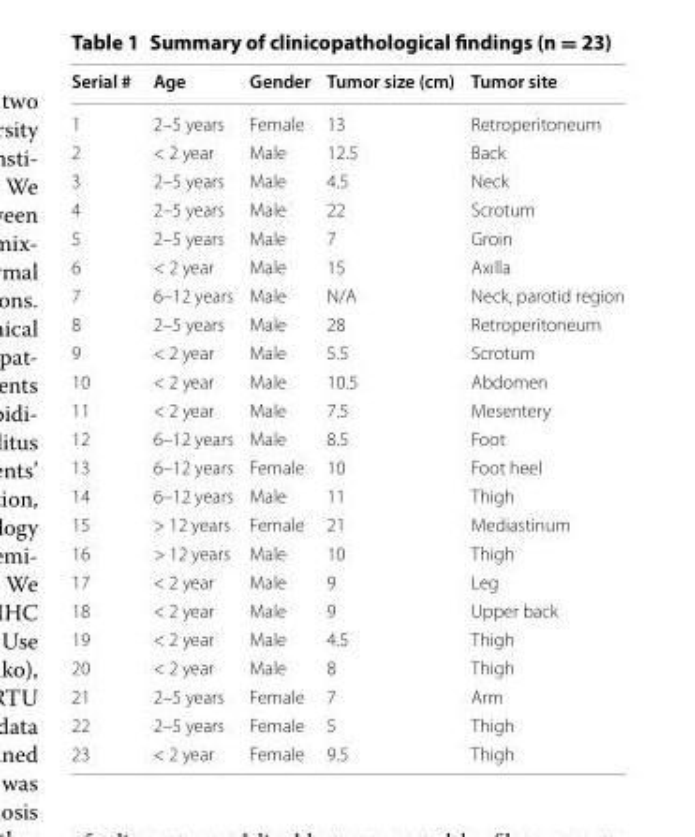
<table><thead><tr><td>Serial #</td><td>Age</td><td>Gender</td><td>Tumor size (cm)</td><td>Tumor site</td></tr></thead><tbody><tr><td>1</td><td>2–5 years</td><td>Female</td><td>13</td><td>Retroperitoneum</td></tr><tr><td>2</td><td>&lt; 2 year</td><td>Male</td><td>12.5</td><td>Back</td></tr><tr><td>3</td><td>2–5 years</td><td>Male</td><td>4.5</td><td>Neck</td></tr><tr><td>4</td><td>2–5 years</td><td>Male</td><td>22</td><td>Scrotum</td></tr><tr><td>5</td><td>2–5 years</td><td>Male</td><td>7</td><td>Groin</td></tr><tr><td>6</td><td>&lt; 2 year</td><td>Male</td><td>15</td><td>Axilla</td></tr><tr><td>7</td><td>6–12 years</td><td>Male</td><td>N/A</td><td>Neck, parotid region</td></tr><tr><td>8</td><td>2–5 years</td><td>Male</td><td>28</td><td>Retroperitoneum</td></tr><tr><td>9</td><td>&lt; 2 year</td><td>Male</td><td>5.5</td><td>Scrotum</td></tr><tr><td>10</td><td>&lt; 2 year</td><td>Male</td><td>10.5</td><td>Abdomen</td></tr><tr><td>11</td><td>&lt; 2 year</td><td>Male</td><td>7.5</td><td>Mesentery</td></tr><tr><td>12</td><td>6–12 years</td><td>Male</td><td>8.5</td><td>Foot</td></tr><tr><td>13</td><td>6–12 years</td><td>Female</td><td>10</td><td>Foot heel</td></tr><tr><td>14</td><td>6–12 years</td><td>Male</td><td>11</td><td>Thigh</td></tr><tr><td>15</td><td>&gt; 12 years</td><td>Female</td><td>21</td><td>Mediastinum</td></tr><tr><td>16</td><td>&gt; 12 years</td><td>Male</td><td>10</td><td>Thigh</td></tr><tr><td>17</td><td>&lt; 2 year</td><td>Male</td><td>9</td><td>Leg</td></tr><tr><td>18</td><td>&lt; 2 year</td><td>Male</td><td>9</td><td>Upper back</td></tr><tr><td>19</td><td>&lt; 2 year</td><td>Male</td><td>4.5</td><td>Thigh</td></tr><tr><td>20</td><td>&lt; 2 year</td><td>Male</td><td>8</td><td>Thigh</td></tr><tr><td>21</td><td>2–5 years</td><td>Female</td><td>7</td><td>Arm</td></tr><tr><td>22</td><td>2–5 years</td><td>Female</td><td>5</td><td>Thigh</td></tr><tr><td>23</td><td>&lt; 2 year</td><td>Female</td><td>9.5</td><td>Thigh</td></tr></tbody></table>